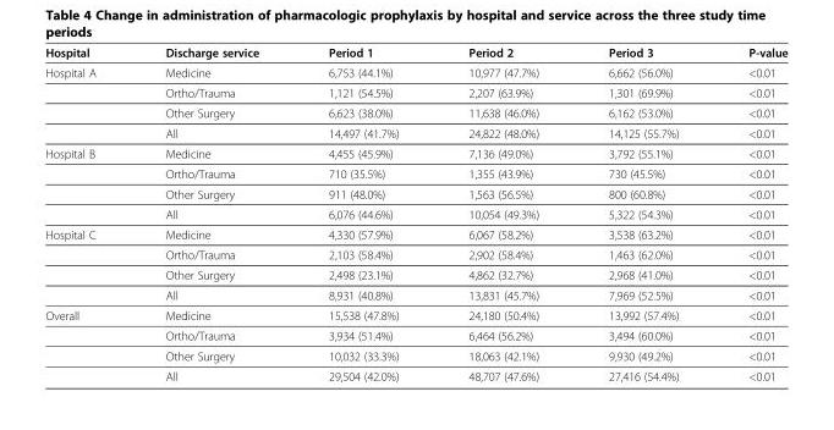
<table><thead><tr><td>Hospital</td><td>Discharge service</td><td>Period 1</td><td>Period 2</td><td>Period 3</td><td>P-value</td></tr></thead><tbody><tr><td rowspan="4">Hospital A</td><td>Medicine</td><td>6,753 (44.1%)</td><td>10,977 (47.7%)</td><td>6,662 (56.0%)</td><td>&lt;0.01</td></tr><tr><td>Ortho/Trauma</td><td>1,121 (54.5%)</td><td>2,207 (63.9%)</td><td>1,301 (69.9%)</td><td>&lt;0.01</td></tr><tr><td>Other Surgery</td><td>6,623 (38.0%)</td><td>11,638 (46.0%)</td><td>6,162 (53.0%)</td><td>&lt;0.01</td></tr><tr><td>All</td><td>14,497 (41.7%)</td><td>24,822 (48.0%)</td><td>14,125 (55.7%)</td><td>&lt;0.01</td></tr><tr><td rowspan="4">Hospital B</td><td>Medicine</td><td>4,455 (45.9%)</td><td>7,136 (49.0%)</td><td>3,792 (55.1%)</td><td>&lt;0.01</td></tr><tr><td>Ortho/Trauma</td><td>710 (35.5%)</td><td>1,355 (43.9%)</td><td>730 (45.5%)</td><td>&lt;0.01</td></tr><tr><td>Other Surgery</td><td>911 (48.0%)</td><td>1,563 (56.5%)</td><td>800 (60.8%)</td><td>&lt;0.01</td></tr><tr><td>All</td><td>6,076 (44.6%)</td><td>10,054 (49.3%)</td><td>5,322 (54.3%)</td><td>&lt;0.01</td></tr><tr><td rowspan="4">Hospital C</td><td>Medicine</td><td>4,330 (57.9%)</td><td>6,067 (58.2%)</td><td>3,538 (63.2%)</td><td>&lt;0.01</td></tr><tr><td>Ortho/Trauma</td><td>2,103 (58.4%)</td><td>2,902 (58.4%)</td><td>1,463 (62.0%)</td><td>&lt;0.01</td></tr><tr><td>Other Surgery</td><td>2,498 (23.1%)</td><td>4,862 (32.7%)</td><td>2,968 (41.0%)</td><td>&lt;0.01</td></tr><tr><td>All</td><td>8,931 (40.8%)</td><td>13,831 (45.7%)</td><td>7,969 (52.5%)</td><td>&lt;0.01</td></tr><tr><td rowspan="4">Overall</td><td>Medicine</td><td>15,538 (47.8%)</td><td>24,180 (50.4%)</td><td>13,992 (57.4%)</td><td>&lt;0.01</td></tr><tr><td>Ortho/Trauma</td><td>3,934 (51.4%)</td><td>6,464 (56.2%)</td><td>3,494 (60.0%)</td><td>&lt;0.01</td></tr><tr><td>Other Surgery</td><td>10,032 (33.3%)</td><td>18,063 (42.1%)</td><td>9,930 (49.2%)</td><td>&lt;0.01</td></tr><tr><td>All</td><td>29,504 (42.0%)</td><td>48,707 (47.6%)</td><td>27,416 (54.4%)</td><td>&lt;0.01</td></tr></tbody></table>